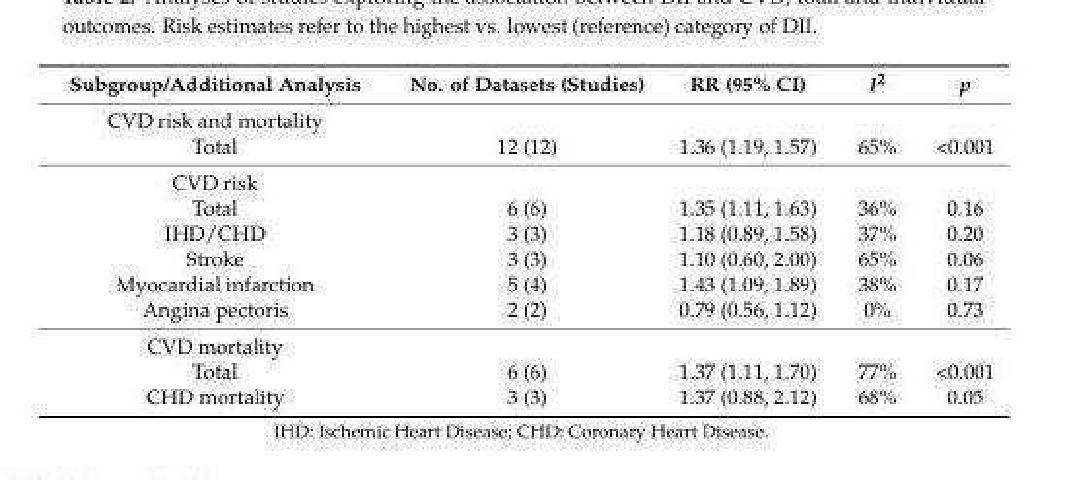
<table><thead><tr><td>Subgroup/Additional Analysis</td><td>No. of Datasets (Studies)</td><td>RR (95% CI)</td><td>I<sup>2</sup></td><td>p</td></tr></thead><tbody><tr><td colspan="5">CVD risk and mortality</td></tr><tr><td>Total</td><td>12 (12)</td><td>1.36 (1.19, 1.57)</td><td>65%</td><td>&lt;0.001</td></tr><tr><td colspan="5">CVD risk</td></tr><tr><td>Total</td><td>6 (6)</td><td>1.35 (1.11, 1.63)</td><td>36%</td><td>0.16</td></tr><tr><td>IHD/CHD</td><td>3 (3)</td><td>1.18 (0.89, 1.58)</td><td>37%</td><td>0.20</td></tr><tr><td>Stroke</td><td>3 (3)</td><td>1.10 (0.60, 2.00)</td><td>65%</td><td>0.06</td></tr><tr><td>Myocardial infarction</td><td>5 (4)</td><td>1.43 (1.09, 1.89)</td><td>38%</td><td>0.17</td></tr><tr><td>Angina pectoris</td><td>2 (2)</td><td>0.79 (0.56, 1.12)</td><td>0%</td><td>0.73</td></tr><tr><td colspan="5">CVD mortality</td></tr><tr><td>Total</td><td>6 (6)</td><td>1.37 (1.11, 1.70)</td><td>77%</td><td>&lt;0.001</td></tr><tr><td>CHD mortality</td><td>3 (3)</td><td>1.37 (0.88, 2.12)</td><td>68%</td><td>0.05</td></tr></tbody></table>